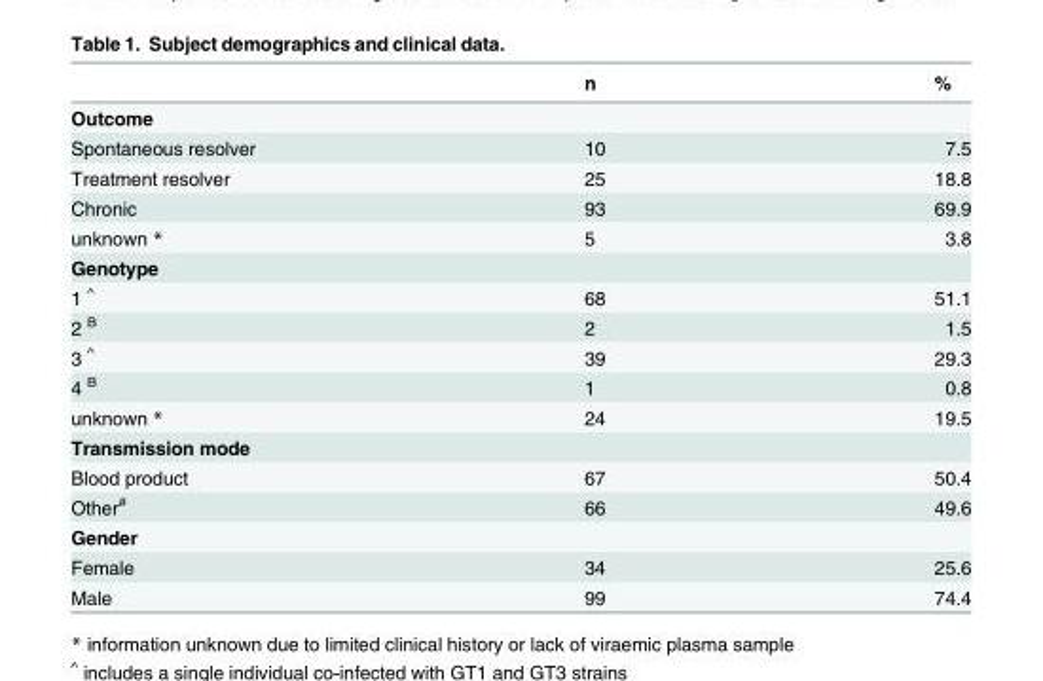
<table><thead><tr><td></td><td>n</td><td>%</td></tr></thead><tbody><tr><td colspan="3">Outcome</td></tr><tr><td>Spontaneous resolver</td><td>10</td><td>7.5</td></tr><tr><td>Treatment resolver</td><td>25</td><td>18.8</td></tr><tr><td>Chronic</td><td>93</td><td>69.9</td></tr><tr><td>unknown *</td><td>5</td><td>3.8</td></tr><tr><td colspan="3">Genotype</td></tr><tr><td>1 <sup>^</sup></td><td>68</td><td>51.1</td></tr><tr><td>2 <sup>B</sup></td><td>2</td><td>1.5</td></tr><tr><td>3 <sup>^</sup></td><td>39</td><td>29.3</td></tr><tr><td>4 <sup>B</sup></td><td>1</td><td>0.8</td></tr><tr><td>unknown *</td><td>24</td><td>19.5</td></tr><tr><td colspan="3">Transmission mode</td></tr><tr><td>Blood product</td><td>67</td><td>50.4</td></tr><tr><td>Other<sup>#</sup></td><td>66</td><td>49.6</td></tr><tr><td colspan="3">Gender</td></tr><tr><td>Female</td><td>34</td><td>25.6</td></tr><tr><td>Male</td><td>99</td><td>74.4</td></tr></tbody></table>